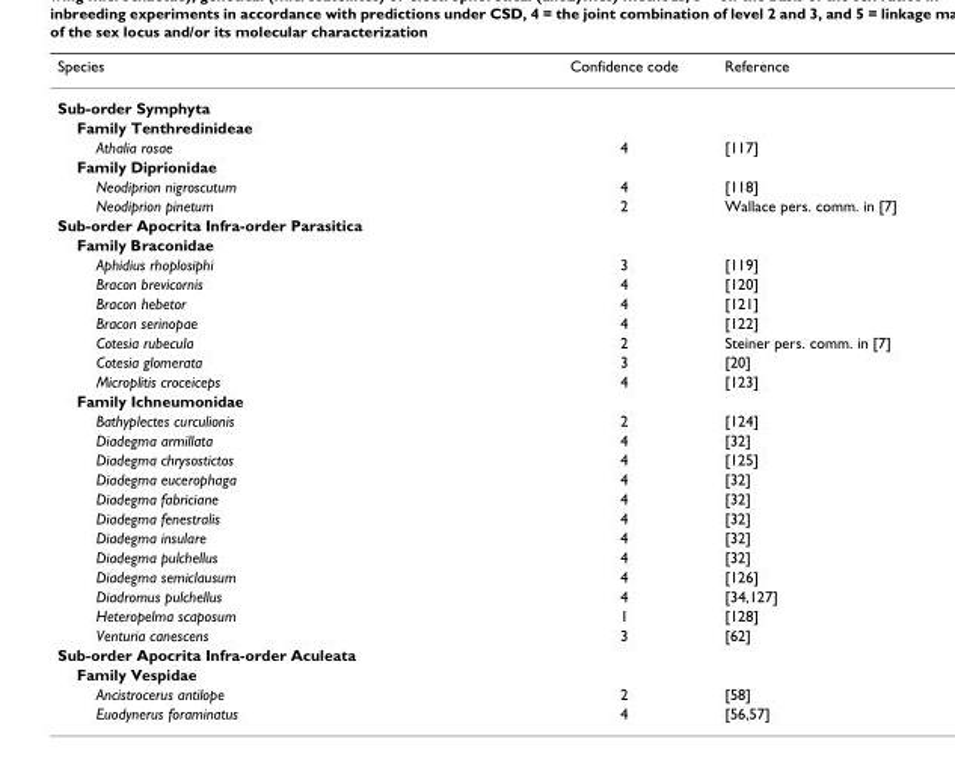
<table><thead><tr><td>Species</td><td>Confidence code</td><td>Reference</td></tr></thead><tbody><tr><td colspan="3">Sub-order Symphyta</td></tr><tr><td colspan="3">Family Tenthredinideae</td></tr><tr><td>Athalia rosae</td><td>4</td><td>[117]</td></tr><tr><td colspan="3">Family Diprionidae</td></tr><tr><td>Neodiprion nigroscutum</td><td>4</td><td>[118]</td></tr><tr><td>Neodiprion pinetum</td><td>2</td><td>Wallace pers. comm. in [7]</td></tr><tr><td colspan="3">Sub-order Apocrita Infra-order Parasitica</td></tr><tr><td colspan="3">Family Braconidae</td></tr><tr><td>Aphidius rhoplosiphi</td><td>3</td><td>[119]</td></tr><tr><td>Bracon brevicornis</td><td>4</td><td>[120]</td></tr><tr><td>Bracon hebetor</td><td>4</td><td>[121]</td></tr><tr><td>Bracon serinopae</td><td>4</td><td>[122]</td></tr><tr><td>Cotesia rubecula</td><td>2</td><td>Steiner pers. comm. in [7]</td></tr><tr><td>Cotesia glomerata</td><td>3</td><td>[20]</td></tr><tr><td>Microplitis croceiceps</td><td>4</td><td>[123]</td></tr><tr><td colspan="3">Family Ichneumonidae</td></tr><tr><td>Bathyplectes curculionis</td><td>2</td><td>[124]</td></tr><tr><td>Diadegma armillata</td><td>4</td><td>[32]</td></tr><tr><td>Diadegma chrysostictos</td><td>4</td><td>[125]</td></tr><tr><td>Diadegma eucerophaga</td><td>4</td><td>[32]</td></tr><tr><td>Diadegma fabriciane</td><td>4</td><td>[32]</td></tr><tr><td>Diadegma fenestralis</td><td>4</td><td>[32]</td></tr><tr><td>Diadegma insulare</td><td>4</td><td>[32]</td></tr><tr><td>Diadegma pulchellus</td><td>4</td><td>[32]</td></tr><tr><td>Diadegma semiclausum</td><td>4</td><td>[126]</td></tr><tr><td>Diadromus pulchellus</td><td>4</td><td>[34,127]</td></tr><tr><td>Heteropelma scaposum</td><td>1</td><td>[128]</td></tr><tr><td>Venturia canescens</td><td>3</td><td>[62]</td></tr><tr><td colspan="3">Sub-order Apocrita Infra-order Aculeata</td></tr><tr><td colspan="3">Family Vespidae</td></tr><tr><td>Ancistrocerus antilope</td><td>2</td><td>[58]</td></tr><tr><td>Euodynerus foraminatus</td><td>4</td><td>[56,57]</td></tr></tbody></table>